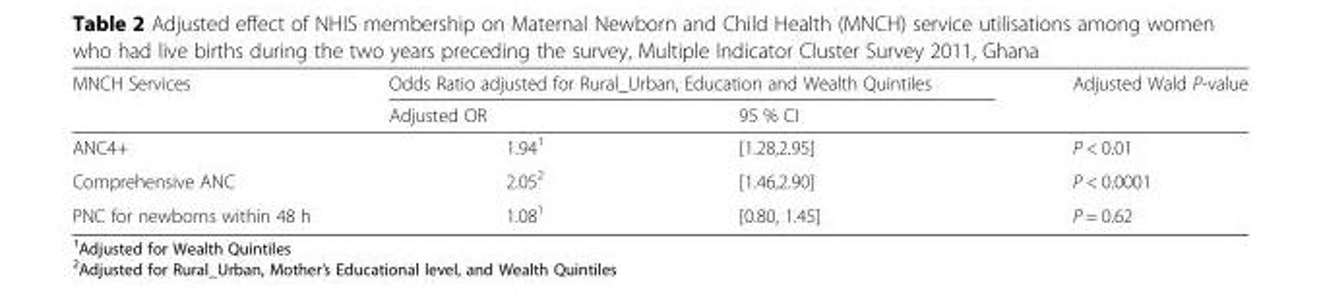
<table><thead><tr><td rowspan="2">MNCH Services</td><td colspan="2">Odds Ratio adjusted for Rural_Urban, Education and Wealth Quintiles</td><td rowspan="2">Adjusted Wald P-value</td></tr><tr><td>Adjusted OR</td><td>95 % CI</td></tr></thead><tbody><tr><td>ANC4+</td><td>1.94<sup>1</sup></td><td>[1.28,2.95]</td><td>P &lt; 0.01</td></tr><tr><td>Comprehensive ANC</td><td>2.05<sup>2</sup></td><td>[1.46,2.90]</td><td>P &lt; 0.0001</td></tr><tr><td>PNC for newborns within 48 h</td><td>1.08<sup>1</sup></td><td>[0.80, 1.45]</td><td>P = 0.62</td></tr></tbody></table>